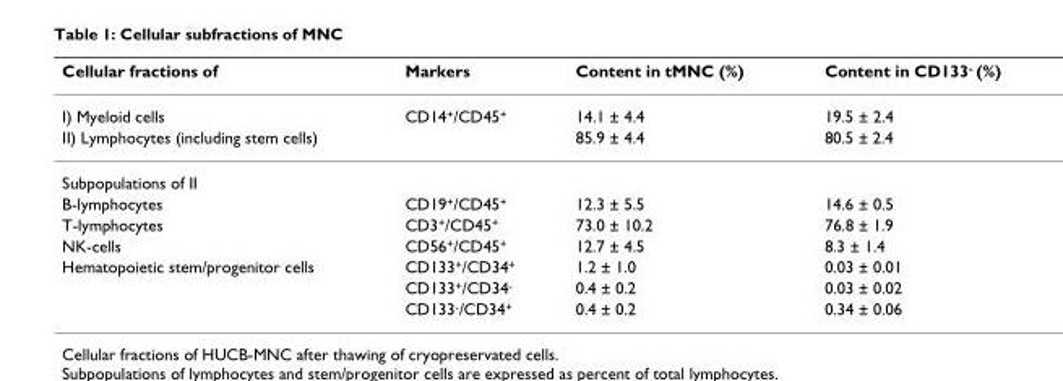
<table><thead><tr><td>Cellular fractions of</td><td>Markers</td><td>Content in tMNC (%)</td><td>Content in CD133<sup>-</sup> (%)</td></tr></thead><tbody><tr><td>I) Myeloid cells</td><td>CD14<sup>+</sup>/CD45<sup>+</sup></td><td>14.1 ± 4.4</td><td>19.5 ± 2.4</td></tr><tr><td>II) Lymphocytes (including stem cells)</td><td></td><td>85.9 ± 4.4</td><td>80.5 ± 2.4</td></tr><tr><td colspan="4">Subpopulations of II</td></tr><tr><td>B-lymphocytes</td><td>CD19<sup>+</sup>/CD45<sup>+</sup></td><td>12.3 ± 5.5</td><td>14.6 ± 0.5</td></tr><tr><td>T-lymphocytes</td><td>CD3<sup>+</sup>/CD45<sup>+</sup></td><td>73.0 ± 10.2</td><td>76.8 ± 1.9</td></tr><tr><td>NK-cells</td><td>CD56<sup>+</sup>/CD45<sup>+</sup></td><td>12.7 ± 4.5</td><td>8.3 ± 1.4</td></tr><tr><td rowspan="3">Hematopoietic stem/progenitor cells</td><td>CD133<sup>+</sup>/CD34<sup>+</sup></td><td>1.2 ± 1.0</td><td>0.03 ± 0.01</td></tr><tr><td>CD133<sup>+</sup>/CD34<sup>-</sup></td><td>0.4 ± 0.2</td><td>0.03 ± 0.02</td></tr><tr><td>CD133<sup>-</sup>/CD34<sup>+</sup></td><td>0.4 ± 0.2</td><td>0.34 ± 0.06</td></tr></tbody></table>